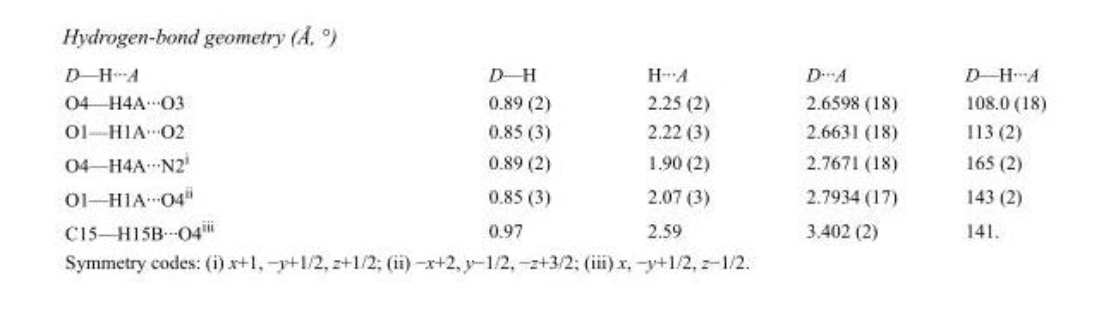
<table><tbody><tr><td>D—H···A</td><td>D—H</td><td>H···A</td><td>D···A</td><td>D—H···A</td></tr><tr><td>O4—H4A···O3</td><td>0.89 (2)</td><td>2.25 (2)</td><td>2.6598 (18)</td><td>108.0 (18)</td></tr><tr><td>O1—H1A···O2</td><td>0.85 (3)</td><td>2.22 (3)</td><td>2.6631 (18)</td><td>113 (2)</td></tr><tr><td>O4—H4A···N2<sup>i</sup></td><td>0.89 (2)</td><td>1.90 (2)</td><td>2.7671 (18)</td><td>165 (2)</td></tr><tr><td>O1—H1A···O4<sup>ii</sup></td><td>0.85 (3)</td><td>2.07 (3)</td><td>2.7934 (17)</td><td>143 (2)</td></tr><tr><td>C15—H15B···O4<sup>iii</sup></td><td>0.97</td><td>2.59</td><td>3.402 (2)</td><td>141.</td></tr></tbody></table>